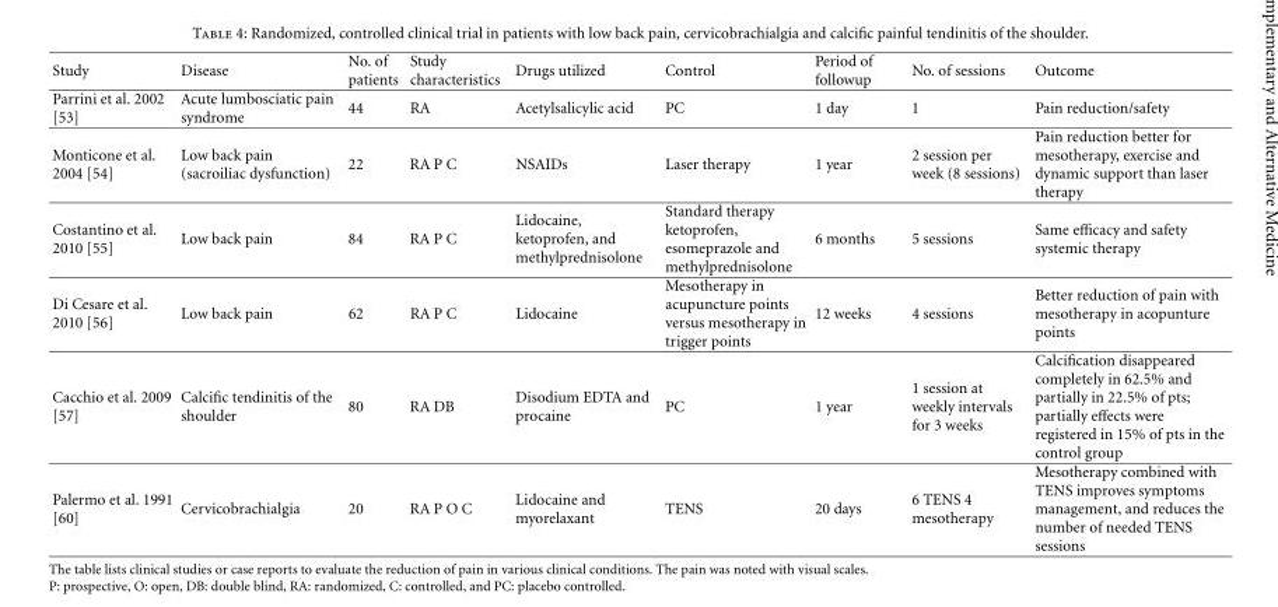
<table><thead><tr><td>Study</td><td>Disease</td><td>No. of patients</td><td>Study characteristics</td><td>Drugs utilized</td><td>Control</td><td>Period of followup</td><td>No. of sessions</td><td>Outcome</td></tr></thead><tbody><tr><td>Parrini et al. 2002 [53]</td><td>Acute lumbosciatic pain syndrome</td><td>44</td><td>RA</td><td>Acetylsalicylic acid</td><td>PC</td><td>1 day</td><td>1</td><td>Pain reduction/safety</td></tr><tr><td>Monticone et al. 2004 [54]</td><td>Low back pain (sacroiliac dysfunction)</td><td>22</td><td>RA P C</td><td>NSAIDs</td><td>Laser therapy</td><td>1 year</td><td>2 session per week (8 sessions)</td><td>Pain reduction better for mesotherapy, exercise and dynamic support than laser therapy</td></tr><tr><td>Costantino et al. 2010 [55]</td><td>Low back pain</td><td>84</td><td>RA P C</td><td>Lidocaine, ketoprofen, and methylprednisolone</td><td>Standard therapy ketoprofen, esomeprazole and methylprednisolone</td><td>6 months</td><td>5 sessions</td><td>Same efficacy and safety systemic therapy</td></tr><tr><td>Di Cesare et al. 2010 [56]</td><td>Low back pain</td><td>62</td><td>RA P C</td><td>Lidocaine</td><td>Mesotherapy in acupuncture points versus mesotherapy in trigger points</td><td>12 weeks</td><td>4 sessions</td><td>Better reduction of pain with mesotherapy in acopunture points</td></tr><tr><td>Cacchio et al. 2009 [57]</td><td>Calcific tendinitis of the shoulder</td><td>80</td><td>RA DB</td><td>Disodium EDTA and procaine</td><td>PC</td><td>1 year</td><td>1 session at weekly intervals for 3 weeks</td><td>Calcification disappeared completely in 62.5% and partially in 22.5% of pts; partially effects were registered in 15% of pts in the control group</td></tr><tr><td>Palermo et al. 1991 [60]</td><td>Cervicobrachialgia</td><td>20</td><td>RA P O C</td><td>Lidocaine and myorelaxant</td><td>TENS</td><td>20 days</td><td>6 TENS 4 mesotherapy</td><td>Mesotherapy combined with TENS improves symptoms management, and reduces the number of needed TENS sessions</td></tr></tbody></table>